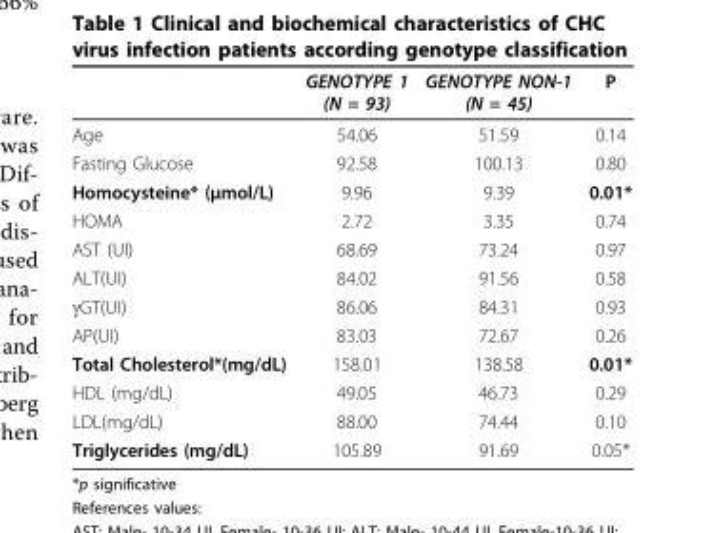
<table><thead><tr><td></td><td>GENOTYPE 1 (N = 93)</td><td>GENOTYPE NON-1 (N = 45)</td><td>P</td></tr></thead><tbody><tr><td>Age</td><td>54.06</td><td>51.59</td><td>0.14</td></tr><tr><td>Fasting Glucose</td><td>92.58</td><td>100.13</td><td>0.80</td></tr><tr><td>Homocysteine* (μmol/L)</td><td>9.96</td><td>9.39</td><td>0.01*</td></tr><tr><td>HOMA</td><td>2.72</td><td>3.35</td><td>0.74</td></tr><tr><td>AST (UI)</td><td>68.69</td><td>73.24</td><td>0.97</td></tr><tr><td>ALT(UI)</td><td>84.02</td><td>91.56</td><td>0.58</td></tr><tr><td>γGT(UI)</td><td>86.06</td><td>84.31</td><td>0.93</td></tr><tr><td>AP(UI)</td><td>83.03</td><td>72.67</td><td>0.26</td></tr><tr><td>Total Cholesterol*(mg/dL)</td><td>158.01</td><td>138.58</td><td>0.01*</td></tr><tr><td>HDL (mg/dL)</td><td>49.05</td><td>46.73</td><td>0.29</td></tr><tr><td>LDL(mg/dL)</td><td>88.00</td><td>74.44</td><td>0.10</td></tr><tr><td>Triglycerides (mg/dL)</td><td>105.89</td><td>91.69</td><td>0.05*</td></tr></tbody></table>